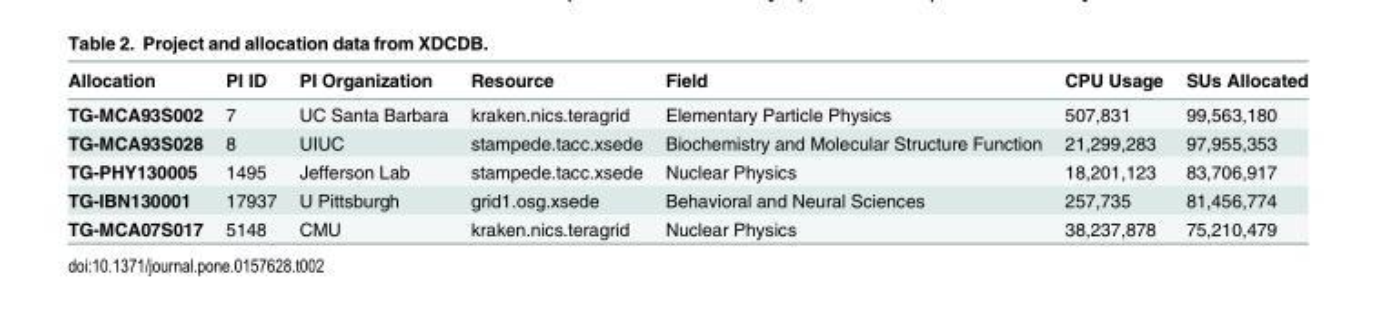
<table><thead><tr><td>Allocation</td><td>PI ID</td><td>PI Organization</td><td>Resource</td><td>Field</td><td>CPU Usage</td><td>SUs Allocated</td></tr></thead><tbody><tr><td>TG-MCA93S002</td><td>7</td><td>UC Santa Barbara</td><td>kraken.nics.teragrid</td><td>Elementary Particle Physics</td><td>507,831</td><td>99,563,180</td></tr><tr><td>TG-MCA93S028</td><td>8</td><td>UIUC</td><td>stampede.tacc.xsede</td><td>Biochemistry and Molecular Structure Function</td><td>21,299,283</td><td>97,955,353</td></tr><tr><td>TG-PHY130005</td><td>1495</td><td>Jefferson Lab</td><td>stampede.tacc.xsede</td><td>Nuclear Physics</td><td>18,201,123</td><td>83,706,917</td></tr><tr><td>TG-IBN130001</td><td>17937</td><td>U Pittsburgh</td><td>grid1.osg.xsede</td><td>Behavioral and Neural Sciences</td><td>257,735</td><td>81,456,774</td></tr><tr><td>TG-MCA07S017</td><td>5148</td><td>CMU</td><td>kraken.nics.teragrid</td><td>Nuclear Physics</td><td>38,237,878</td><td>75,210,479</td></tr></tbody></table>